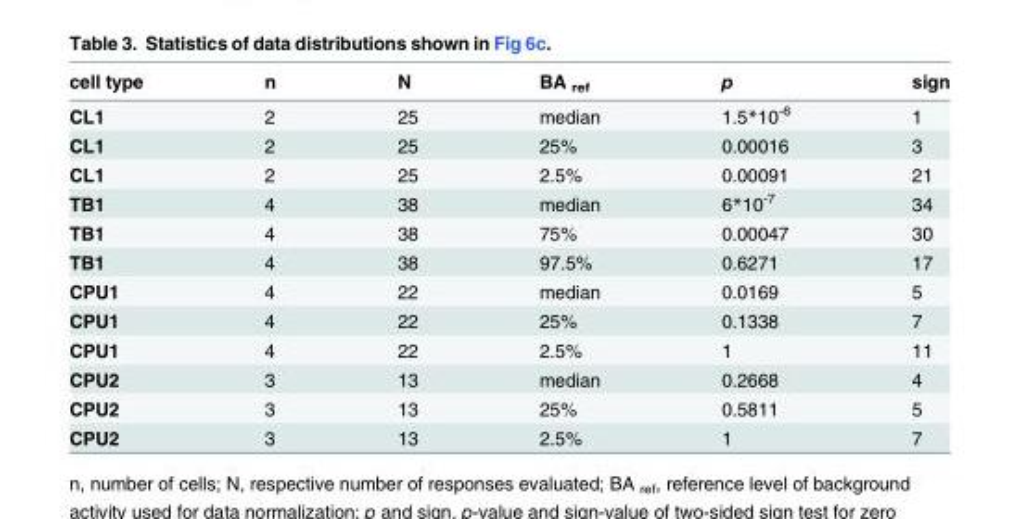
<table><thead><tr><td>cell type</td><td>n</td><td>N</td><td>BA <sub>ref</sub></td><td>p</td><td>sign</td></tr></thead><tbody><tr><td>CL1</td><td>2</td><td>25</td><td>median</td><td>1.5*10<sup>-6</sup></td><td>1</td></tr><tr><td>CL1</td><td>2</td><td>25</td><td>25%</td><td>0.00016</td><td>3</td></tr><tr><td>CL1</td><td>2</td><td>25</td><td>2.5%</td><td>0.00091</td><td>21</td></tr><tr><td>TB1</td><td>4</td><td>38</td><td>median</td><td>6*10<sup>-7</sup></td><td>34</td></tr><tr><td>TB1</td><td>4</td><td>38</td><td>75%</td><td>0.00047</td><td>30</td></tr><tr><td>TB1</td><td>4</td><td>38</td><td>97.5%</td><td>0.6271</td><td>17</td></tr><tr><td>CPU1</td><td>4</td><td>22</td><td>median</td><td>0.0169</td><td>5</td></tr><tr><td>CPU1</td><td>4</td><td>22</td><td>25%</td><td>0.1338</td><td>7</td></tr><tr><td>CPU1</td><td>4</td><td>22</td><td>2.5%</td><td>1</td><td>11</td></tr><tr><td>CPU2</td><td>3</td><td>13</td><td>median</td><td>0.2668</td><td>4</td></tr><tr><td>CPU2</td><td>3</td><td>13</td><td>25%</td><td>0.5811</td><td>5</td></tr><tr><td>CPU2</td><td>3</td><td>13</td><td>2.5%</td><td>1</td><td>7</td></tr></tbody></table>